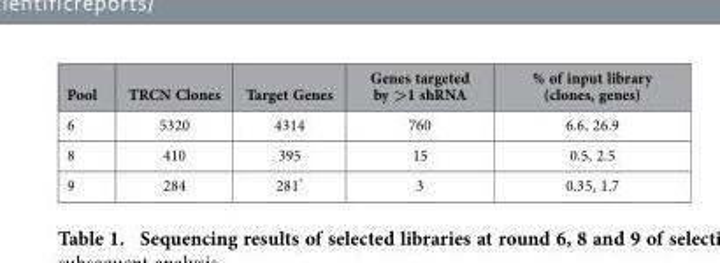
<table><thead><tr><td>Pool</td><td>TRCN Clones</td><td>Target Genes</td><td>Genes targeted by &gt;1 shRNA</td><td>% of input library (clones, genes)</td></tr></thead><tbody><tr><td>6</td><td>5320</td><td>4314</td><td>760</td><td>6.6, 26.9</td></tr><tr><td>8</td><td>410</td><td>395</td><td>15</td><td>0.5, 2.5</td></tr><tr><td>9</td><td>284</td><td>281*</td><td>3</td><td>0.35, 1.7</td></tr></tbody></table>